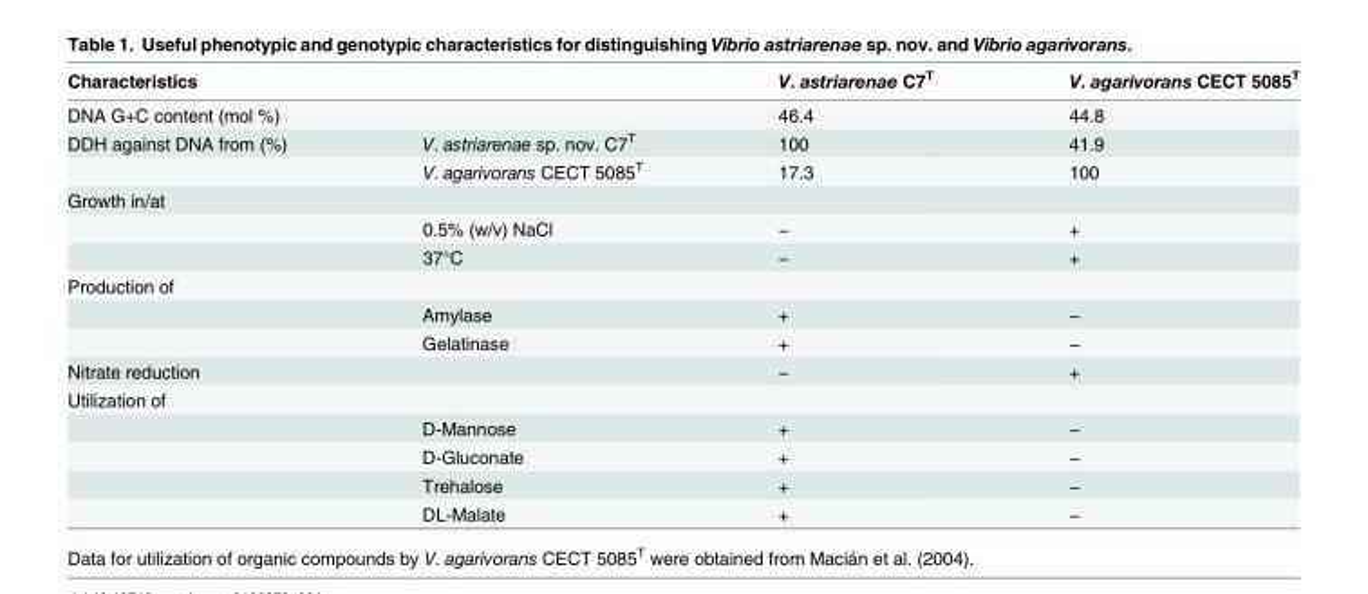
<table><thead><tr><td>Characteristics</td><td></td><td>V. astriarenae C7<sup>T</sup></td><td>V. agarivorans CECT 5085<sup>T</sup></td></tr></thead><tbody><tr><td>DNA G+C content (mol %)</td><td></td><td>46.4</td><td>44.8</td></tr><tr><td rowspan="2">DDH against DNA from (%)</td><td>V. astriarenae sp. nov. C7<sup>T</sup></td><td>100</td><td>41.9</td></tr><tr><td>V. agarivorans CECT 5085<sup>T</sup></td><td>17.3</td><td>100</td></tr><tr><td colspan="4">Growth in/at</td></tr><tr><td></td><td>0.5% (w/v) NaCl</td><td>−</td><td>+</td></tr><tr><td></td><td>37°C</td><td>−</td><td>+</td></tr><tr><td colspan="4">Production of</td></tr><tr><td></td><td>Amylase</td><td>+</td><td>−</td></tr><tr><td></td><td>Gelatinase</td><td>+</td><td>−</td></tr><tr><td>Nitrate reduction</td><td></td><td>−</td><td>+</td></tr><tr><td colspan="4">Utilization of</td></tr><tr><td></td><td>D-Mannose</td><td>+</td><td>−</td></tr><tr><td></td><td>D-Gluconate</td><td>+</td><td>−</td></tr><tr><td></td><td>Trehalose</td><td>+</td><td>−</td></tr><tr><td></td><td>DL-Malate</td><td>+</td><td>−</td></tr></tbody></table>